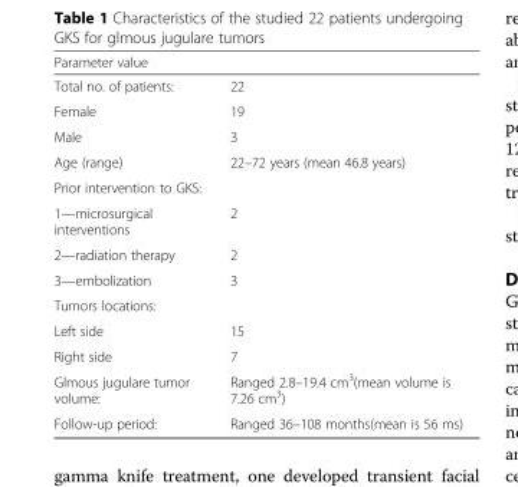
<table><thead><tr><td>Parameter value</td><td></td></tr></thead><tbody><tr><td>Total no. of patients:</td><td>22</td></tr><tr><td>Female</td><td>19</td></tr><tr><td>Male</td><td>3</td></tr><tr><td>Age (range)</td><td>22–72 years (mean 46.8 years)</td></tr><tr><td colspan="2">Prior intervention to GKS:</td></tr><tr><td>1—microsurgical interventions</td><td>2</td></tr><tr><td>2—radiation therapy</td><td>2</td></tr><tr><td>3—embolization</td><td>3</td></tr><tr><td colspan="2">Tumors locations:</td></tr><tr><td>Left side</td><td>15</td></tr><tr><td>Right side</td><td>7</td></tr><tr><td>Glmous jugulare tumor volume:</td><td>Ranged 2.8–19.4 cm<sup>3</sup>(mean volume is 7.26 cm<sup>3</sup>)</td></tr><tr><td>Follow-up period:</td><td>Ranged 36–108 months(mean is 56 ms)</td></tr></tbody></table>